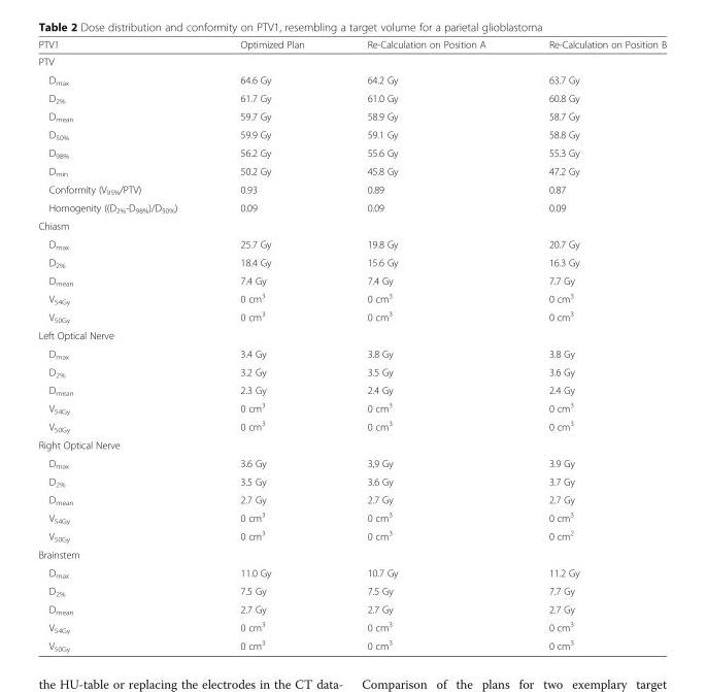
<table><thead><tr><td>PTV1</td><td>Optimized Plan</td><td>Re-Calculation on Position A</td><td>Re-Calculation on Position B</td></tr></thead><tbody><tr><td colspan="4">PTV</td></tr><tr><td>D<sub>max</sub></td><td>64.6 Gy</td><td>64.2 Gy</td><td>63.7 Gy</td></tr><tr><td>D<sub>2%</sub></td><td>61.7 Gy</td><td>61.0 Gy</td><td>60.8 Gy</td></tr><tr><td>D<sub>mean</sub></td><td>59.7 Gy</td><td>58.9 Gy</td><td>58.7 Gy</td></tr><tr><td>D<sub>50%</sub></td><td>59.9 Gy</td><td>59.1 Gy</td><td>58.8 Gy</td></tr><tr><td>D<sub>98%</sub></td><td>56.2 Gy</td><td>55.6 Gy</td><td>55.3 Gy</td></tr><tr><td>D<sub>min</sub></td><td>50.2 Gy</td><td>45.8 Gy</td><td>47.2 Gy</td></tr><tr><td>Conformity (V<sub>95%</sub>/PTV)</td><td>0.93</td><td>0.89</td><td>0.87</td></tr><tr><td>Homogenity ((D<sub>2%</sub>-D<sub>98%</sub>)/D<sub>50%</sub>)</td><td>0.09</td><td>0.09</td><td>0.09</td></tr><tr><td colspan="4">Chiasm</td></tr><tr><td>D<sub>max</sub></td><td>25.7 Gy</td><td>19.8 Gy</td><td>20.7 Gy</td></tr><tr><td>D<sub>2%</sub></td><td>18.4 Gy</td><td>15.6 Gy</td><td>16.3 Gy</td></tr><tr><td>D<sub>mean</sub></td><td>7.4 Gy</td><td>7.4 Gy</td><td>7.7 Gy</td></tr><tr><td>V<sub>54Gy</sub></td><td>0 cm<sup>3</sup></td><td>0 cm<sup>3</sup></td><td>0 cm<sup>3</sup></td></tr><tr><td>V<sub>50Gy</sub></td><td>0 cm<sup>3</sup></td><td>0 cm<sup>3</sup></td><td>0 cm<sup>3</sup></td></tr><tr><td colspan="4">Left Optical Nerve</td></tr><tr><td>D<sub>max</sub></td><td>3.4 Gy</td><td>3.8 Gy</td><td>3.8 Gy</td></tr><tr><td>D<sub>2%</sub></td><td>3.2 Gy</td><td>3.5 Gy</td><td>3.6 Gy</td></tr><tr><td>D<sub>mean</sub></td><td>2.3 Gy</td><td>2.4 Gy</td><td>2.4 Gy</td></tr><tr><td>V<sub>54Gy</sub></td><td>0 cm<sup>3</sup></td><td>0 cm<sup>3</sup></td><td>0 cm<sup>3</sup></td></tr><tr><td>V<sub>50Gy</sub></td><td>0 cm<sup>3</sup></td><td>0 cm<sup>3</sup></td><td>0 cm<sup>3</sup></td></tr><tr><td colspan="4">Right Optical Nerve</td></tr><tr><td>D<sub>max</sub></td><td>3.6 Gy</td><td>3,9 Gy</td><td>3.9 Gy</td></tr><tr><td>D<sub>2%</sub></td><td>3.5 Gy</td><td>3.6 Gy</td><td>3.7 Gy</td></tr><tr><td>D<sub>mean</sub></td><td>2.7 Gy</td><td>2.7 Gy</td><td>2.7 Gy</td></tr><tr><td>V<sub>54Gy</sub></td><td>0 cm<sup>3</sup></td><td>0 cm<sup>3</sup></td><td>0 cm<sup>3</sup></td></tr><tr><td>V<sub>50Gy</sub></td><td>0 cm<sup>3</sup></td><td>0 cm<sup>3</sup></td><td>0 cm<sup>2</sup></td></tr><tr><td colspan="4">Brainstem</td></tr><tr><td>D<sub>max</sub></td><td>11.0 Gy</td><td>10.7 Gy</td><td>11.2 Gy</td></tr><tr><td>D<sub>2%</sub></td><td>7.5 Gy</td><td>7.5 Gy</td><td>7.7 Gy</td></tr><tr><td>D<sub>mean</sub></td><td>2.7 Gy</td><td>2.7 Gy</td><td>2.7 Gy</td></tr><tr><td>V<sub>54Gy</sub></td><td>0 cm<sup>3</sup></td><td>0 cm<sup>3</sup></td><td>0 cm<sup>3</sup></td></tr><tr><td>V<sub>50Gy</sub></td><td>0 cm<sup>3</sup></td><td>0 cm<sup>3</sup></td><td>0 cm<sup>3</sup></td></tr></tbody></table>